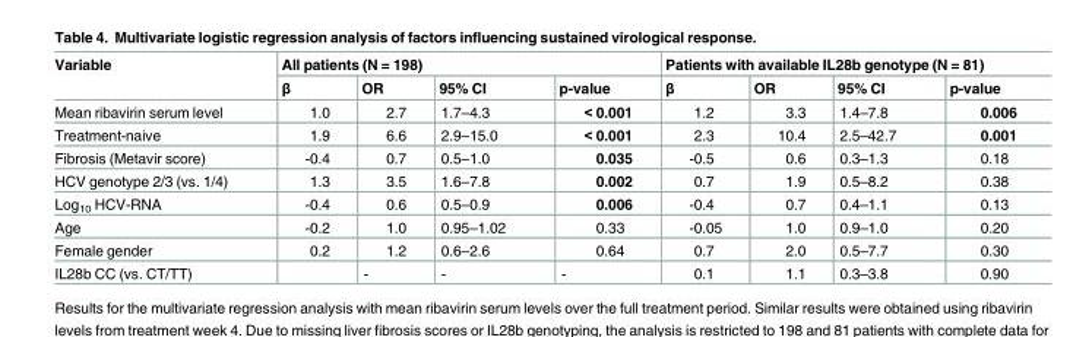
<table><thead><tr><td rowspan="2">Variable</td><td colspan="4">All patients (N = 198)</td><td colspan="4">Patients with available IL28b genotype (N = 81)</td></tr><tr><td>β</td><td>OR</td><td>95% CI</td><td>p-value</td><td>β</td><td>OR</td><td>95% CI</td><td>p-value</td></tr></thead><tbody><tr><td>Mean ribavirin serum level</td><td>1.0</td><td>2.7</td><td>1.7–4.3</td><td>&lt; 0.001</td><td>1.2</td><td>3.3</td><td>1.4–7.8</td><td>0.006</td></tr><tr><td>Treatment-naive</td><td>1.9</td><td>6.6</td><td>2.9–15.0</td><td>&lt; 0.001</td><td>2.3</td><td>10.4</td><td>2.5–42.7</td><td>0.001</td></tr><tr><td>Fibrosis (Metavir score)</td><td>-0.4</td><td>0.7</td><td>0.5–1.0</td><td>0.035</td><td>-0.5</td><td>0.6</td><td>0.3–1.3</td><td>0.18</td></tr><tr><td>HCV genotype 2/3 (vs. 1/4)</td><td>1.3</td><td>3.5</td><td>1.6–7.8</td><td>0.002</td><td>0.7</td><td>1.9</td><td>0.5–8.2</td><td>0.38</td></tr><tr><td>Log<sub>10</sub> HCV-RNA</td><td>-0.4</td><td>0.6</td><td>0.5–0.9</td><td>0.006</td><td>-0.4</td><td>0.7</td><td>0.4–1.1</td><td>0.13</td></tr><tr><td>Age</td><td>-0.2</td><td>1.0</td><td>0.95–1.02</td><td>0.33</td><td>-0.05</td><td>1.0</td><td>0.9–1.0</td><td>0.20</td></tr><tr><td>Female gender</td><td>0.2</td><td>1.2</td><td>0.6–2.6</td><td>0.64</td><td>0.7</td><td>2.0</td><td>0.5–7.7</td><td>0.30</td></tr><tr><td>IL28b CC (vs. CT/TT)</td><td></td><td>-</td><td>-</td><td>-</td><td>0.1</td><td>1.1</td><td>0.3–3.8</td><td>0.90</td></tr></tbody></table>